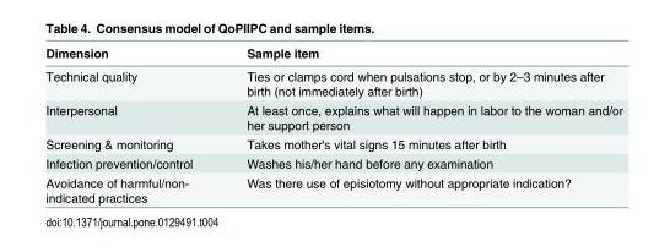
<table><thead><tr><td>Dimension</td><td>Sample item</td></tr></thead><tbody><tr><td>Technical quality</td><td>Ties or clamps cord when pulsations stop, or by 2–3 minutes after birth (not immediately after birth)</td></tr><tr><td>Interpersonal</td><td>At least once, explains what will happen in labor to the woman and/or her support person</td></tr><tr><td>Screening &amp; monitoring</td><td>Takes mother&#x27;s vital signs 15 minutes after birth</td></tr><tr><td>Infection prevention/control</td><td>Washes his/her hand before any examination</td></tr><tr><td>Avoidance of harmful/non- indicated practices</td><td>Was there use of episiotomy without appropriate indication?</td></tr></tbody></table>